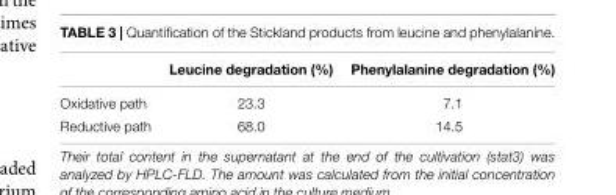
<table><thead><tr><td></td><td>Leucine degradation (%)</td><td>Phenylalanine degradation (%)</td></tr></thead><tbody><tr><td>Oxidative path</td><td>23.3</td><td>7.1</td></tr><tr><td>Reductive path</td><td>68.0</td><td>14.5</td></tr></tbody></table>